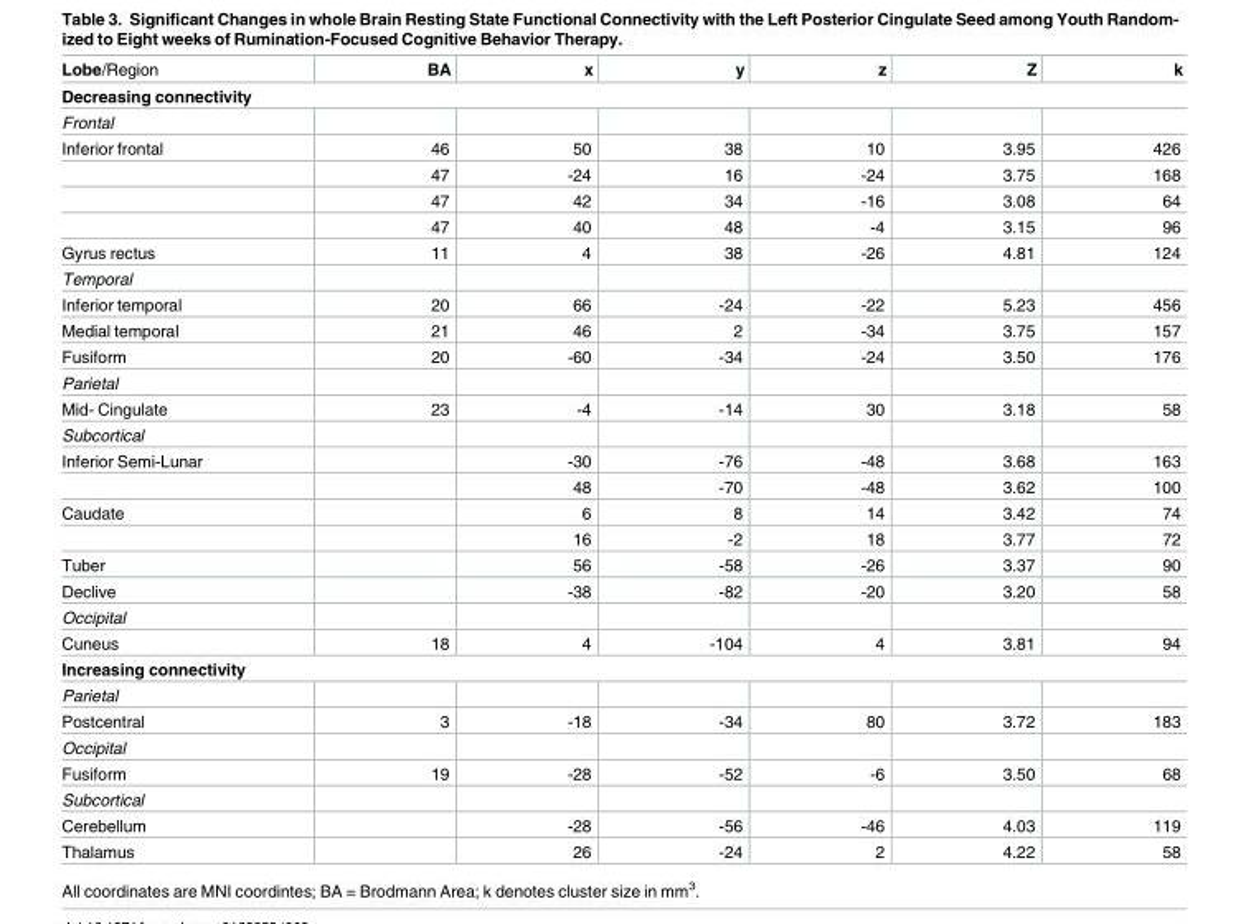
<table><thead><tr><td>Lobe/Region</td><td>BA</td><td>x</td><td>y</td><td>z</td><td>Z</td><td>k</td></tr></thead><tbody><tr><td colspan="7">Decreasing connectivity</td></tr><tr><td colspan="7">Frontal</td></tr><tr><td rowspan="4">Inferior frontal</td><td>46</td><td>50</td><td>38</td><td>10</td><td>3.95</td><td>426</td></tr><tr><td>47</td><td>-24</td><td>16</td><td>-24</td><td>3.75</td><td>168</td></tr><tr><td>47</td><td>42</td><td>34</td><td>-16</td><td>3.08</td><td>64</td></tr><tr><td>47</td><td>40</td><td>48</td><td>-4</td><td>3.15</td><td>96</td></tr><tr><td>Gyrus rectus</td><td>11</td><td>4</td><td>38</td><td>-26</td><td>4.81</td><td>124</td></tr><tr><td colspan="7">Temporal</td></tr><tr><td>Inferior temporal</td><td>20</td><td>66</td><td>-24</td><td>-22</td><td>5.23</td><td>456</td></tr><tr><td>Medial temporal</td><td>21</td><td>46</td><td>2</td><td>-34</td><td>3.75</td><td>157</td></tr><tr><td>Fusiform</td><td>20</td><td>-60</td><td>-34</td><td>-24</td><td>3.50</td><td>176</td></tr><tr><td colspan="7">Parietal</td></tr><tr><td>Mid- Cingulate</td><td>23</td><td>-4</td><td>-14</td><td>30</td><td>3.18</td><td>58</td></tr><tr><td colspan="7">Subcortical</td></tr><tr><td rowspan="2">Inferior Semi-Lunar</td><td></td><td>-30</td><td>-76</td><td>-48</td><td>3.68</td><td>163</td></tr><tr><td></td><td>48</td><td>-70</td><td>-48</td><td>3.62</td><td>100</td></tr><tr><td rowspan="2">Caudate</td><td></td><td>6</td><td>8</td><td>14</td><td>3.42</td><td>74</td></tr><tr><td></td><td>16</td><td>-2</td><td>18</td><td>3.77</td><td>72</td></tr><tr><td>Tuber</td><td></td><td>56</td><td>-58</td><td>-26</td><td>3.37</td><td>90</td></tr><tr><td>Declive</td><td></td><td>-38</td><td>-82</td><td>-20</td><td>3.20</td><td>58</td></tr><tr><td colspan="7">Occipital</td></tr><tr><td>Cuneus</td><td>18</td><td>4</td><td>-104</td><td>4</td><td>3.81</td><td>94</td></tr><tr><td colspan="7">Increasing connectivity</td></tr><tr><td colspan="7">Parietal</td></tr><tr><td>Postcentral</td><td>3</td><td>-18</td><td>-34</td><td>80</td><td>3.72</td><td>183</td></tr><tr><td colspan="7">Occipital</td></tr><tr><td>Fusiform</td><td>19</td><td>-28</td><td>-52</td><td>-6</td><td>3.50</td><td>68</td></tr><tr><td colspan="7">Subcortical</td></tr><tr><td>Cerebellum</td><td></td><td>-28</td><td>-56</td><td>-46</td><td>4.03</td><td>119</td></tr><tr><td>Thalamus</td><td></td><td>26</td><td>-24</td><td>2</td><td>4.22</td><td>58</td></tr></tbody></table>